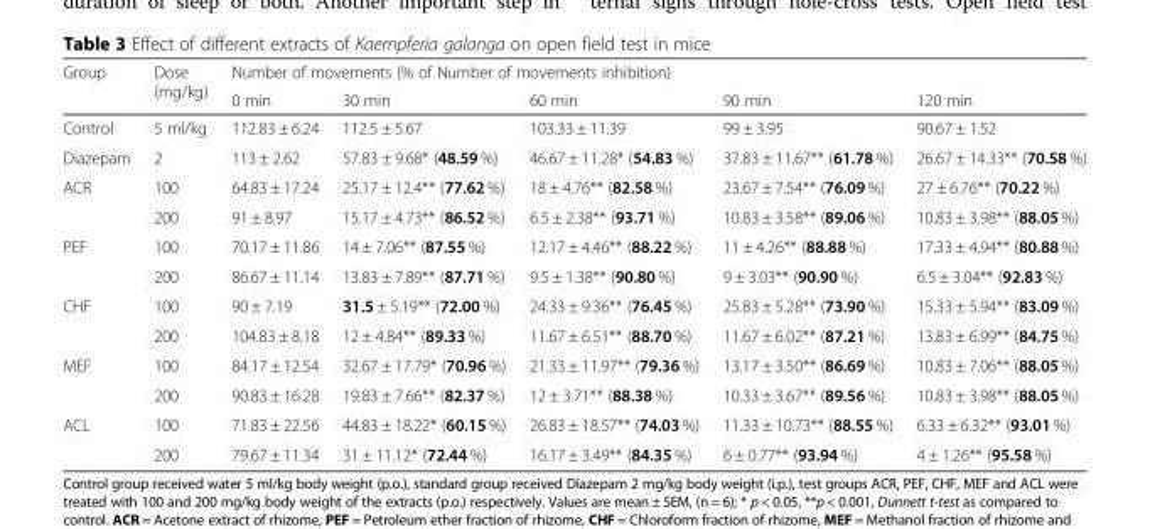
<table><thead><tr><td rowspan="2">Group</td><td rowspan="2">Dose (mg/kg)</td><td colspan="5">Number of movements (% of Number of movements inhibition)</td></tr><tr><td>0 min</td><td>30 min</td><td>60 min</td><td>90 min</td><td>120 min</td></tr></thead><tbody><tr><td>Control</td><td>5 ml/kg</td><td>112.83 ± 6.24</td><td>112.5 ± 5.67</td><td>103.33 ± 11.39</td><td>99 ± 3.95</td><td>90.67 ± 1.52</td></tr><tr><td>Diazepam</td><td>2</td><td>113 ± 2.62</td><td>57.83 ± 9.68* (48.59 %)</td><td>46.67 ± 11.28* (54.83 %)</td><td>37.83 ± 11.67** (61.78 %)</td><td>26.67 ± 14.33** (70.58 %)</td></tr><tr><td rowspan="2">ACR</td><td>100</td><td>64.83 ± 17.24</td><td>25.17 ± 12.4** (77.62 %)</td><td>18 ± 4.76** (82.58 %)</td><td>23.67 ± 7.54** (76.09 %)</td><td>27 ± 6.76** (70.22 %)</td></tr><tr><td>200</td><td>91 ± 8.97</td><td>15.17 ± 4.73** (86.52 %)</td><td>6.5 ± 2.38** (93.71 %)</td><td>10.83 ± 3.58** (89.06 %)</td><td>10.83 ± 3.98** (88.05 %)</td></tr><tr><td rowspan="2">PEF</td><td>100</td><td>70.17 ± 11.86</td><td>14 ± 7.06** (87.55 %)</td><td>12.17 ± 4.46** (88.22 %)</td><td>11 ± 4.26** (88.88 %)</td><td>17.33 ± 4.94** (80.88 %)</td></tr><tr><td>200</td><td>86.67 ± 11.14</td><td>13.83 ± 7.89** (87.71 %)</td><td>9.5 ± 1.38** (90.80 %)</td><td>9 ± 3.03** (90.90 %)</td><td>6.5 ± 3.04** (92.83 %)</td></tr><tr><td rowspan="2">CHF</td><td>100</td><td>90 ± 7.19</td><td>31.5 ± 5.19** (72.00 %)</td><td>24.33 ± 9.36** (76.45 %)</td><td>25.83 ± 5.28** (73.90 %)</td><td>15.33 ± 5.94** (83.09 %)</td></tr><tr><td>200</td><td>104.83 ± 8.18</td><td>12 ± 4.84** (89.33 %)</td><td>11.67 ± 6.51** (88.70 %)</td><td>11.67 ± 6.02** (87.21 %)</td><td>13.83 ± 6.99** (84.75 %)</td></tr><tr><td rowspan="2">MEF</td><td>100</td><td>84.17 ± 12.54</td><td>32.67 ± 17.79* (70.96 %)</td><td>21.33 ± 11.97** (79.36 %)</td><td>13.17 ± 3.50** (86.69 %)</td><td>10.83 ± 7.06** (88.05 %)</td></tr><tr><td>200</td><td>90.83 ± 16.28</td><td>19.83 ± 7.66** (82.37 %)</td><td>12 ± 3.71** (88.38 %)</td><td>10.33 ± 3.67** (89.56 %)</td><td>10.83 ± 3.98** (88.05 %)</td></tr><tr><td rowspan="2">ACL</td><td>100</td><td>71.83 ± 22.56</td><td>44.83 ± 18.22* (60.15 %)</td><td>26.83 ± 18.57** (74.03 %)</td><td>11.33 ± 10.73** (88.55 %)</td><td>6.33 ± 6.32** (93.01 %)</td></tr><tr><td>200</td><td>79.67 ± 11.34</td><td>31 ± 11.12* (72.44 %)</td><td>16.17 ± 3.49** (84.35 %)</td><td>6 ± 0.77** (93.94 %)</td><td>4 ± 1.26** (95.58 %)</td></tr></tbody></table>